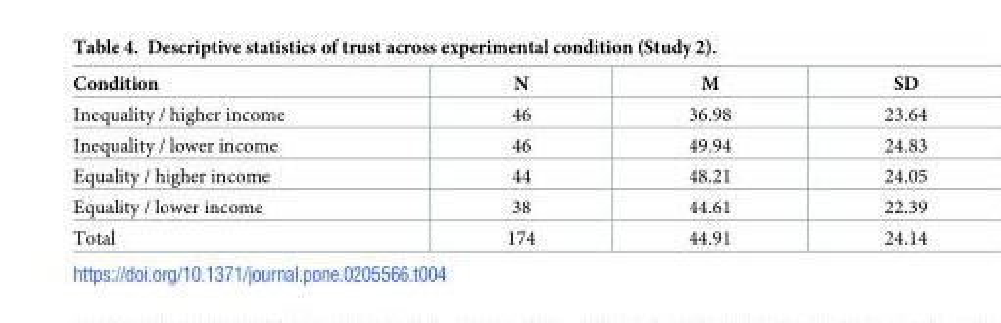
<table><thead><tr><td>Condition</td><td>N</td><td>M</td><td>SD</td></tr></thead><tbody><tr><td>Inequality / higher income</td><td>46</td><td>36.98</td><td>23.64</td></tr><tr><td>Inequality / lower income</td><td>46</td><td>49.94</td><td>24.83</td></tr><tr><td>Equality / higher income</td><td>44</td><td>48.21</td><td>24.05</td></tr><tr><td>Equality / lower income</td><td>38</td><td>44.61</td><td>22.39</td></tr><tr><td>Total</td><td>174</td><td>44.91</td><td>24.14</td></tr></tbody></table>